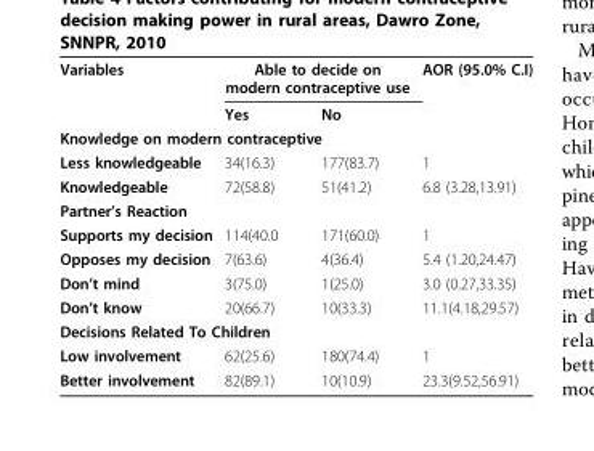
<table><tbody><tr><td rowspan="2">Variables</td><td colspan="2">Able to decide on modern contraceptive use</td><td>AOR (95.0% C.I)</td></tr><tr><td>Yes</td><td>No</td><td></td></tr><tr><td colspan="4">Knowledge on modern contraceptive</td></tr><tr><td>Less knowledgeable</td><td>34(16.3)</td><td>177(83.7)</td><td>1</td></tr><tr><td>Knowledgeable</td><td>72(58.8)</td><td>51(41.2)</td><td>6.8 (3.28,13.91)</td></tr><tr><td colspan="4">Partner’s Reaction</td></tr><tr><td>Supports my decision</td><td>114(40.0</td><td>171(60.0)</td><td>1</td></tr><tr><td>Opposes my decision</td><td>7(63.6)</td><td>4(36.4)</td><td>5.4 (1.20,24.47)</td></tr><tr><td>Don’t mind</td><td>3(75.0)</td><td>1(25.0)</td><td>3.0 (0.27,33.35)</td></tr><tr><td>Don’t know</td><td>20(66.7)</td><td>10(33.3)</td><td>11.1(4.18,29.57)</td></tr><tr><td colspan="4">Decisions Related To Children</td></tr><tr><td>Low involvement</td><td>62(25.6)</td><td>180(74.4)</td><td>1</td></tr><tr><td>Better involvement</td><td>82(89.1)</td><td>10(10.9)</td><td>23.3(9.52,56.91)</td></tr></tbody></table>